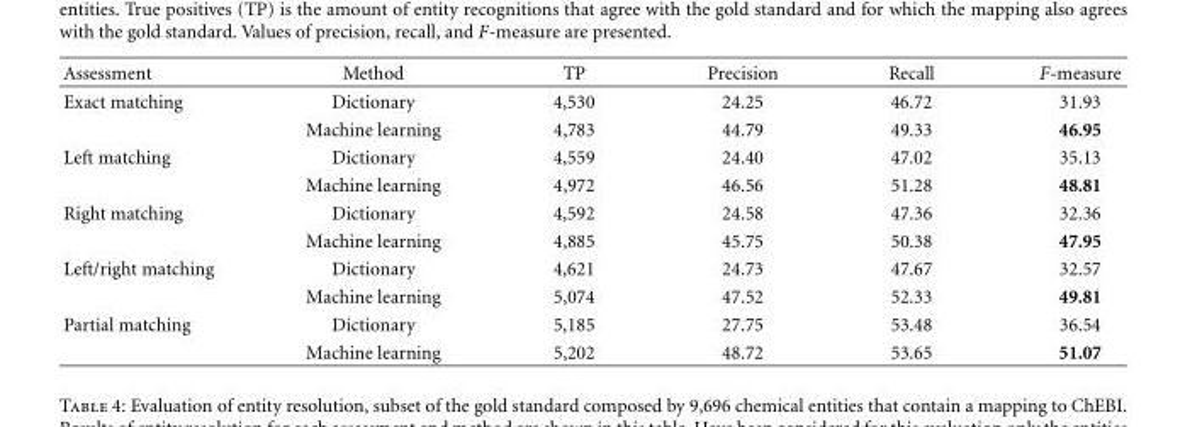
<table><thead><tr><td>Assessment</td><td>Method</td><td>TP</td><td>Precision</td><td>Recall</td><td>F-measure</td></tr></thead><tbody><tr><td rowspan="2">Exact matching</td><td>Dictionary</td><td>4,530</td><td>24.25</td><td>46.72</td><td>31.93</td></tr><tr><td>Machine learning</td><td>4,783</td><td>44.79</td><td>49.33</td><td>46.95</td></tr><tr><td rowspan="2">Left matching</td><td>Dictionary</td><td>4,559</td><td>24.40</td><td>47.02</td><td>35.13</td></tr><tr><td>Machine learning</td><td>4,972</td><td>46.56</td><td>51.28</td><td>48.81</td></tr><tr><td rowspan="2">Right matching</td><td>Dictionary</td><td>4,592</td><td>24.58</td><td>47.36</td><td>32.36</td></tr><tr><td>Machine learning</td><td>4,885</td><td>45.75</td><td>50.38</td><td>47.95</td></tr><tr><td rowspan="2">Left/right matching</td><td>Dictionary</td><td>4,621</td><td>24.73</td><td>47.67</td><td>32.57</td></tr><tr><td>Machine learning</td><td>5,074</td><td>47.52</td><td>52.33</td><td>49.81</td></tr><tr><td rowspan="2">Partial matching</td><td>Dictionary</td><td>5,185</td><td>27.75</td><td>53.48</td><td>36.54</td></tr><tr><td>Machine learning</td><td>5,202</td><td>48.72</td><td>53.65</td><td>51.07</td></tr></tbody></table>